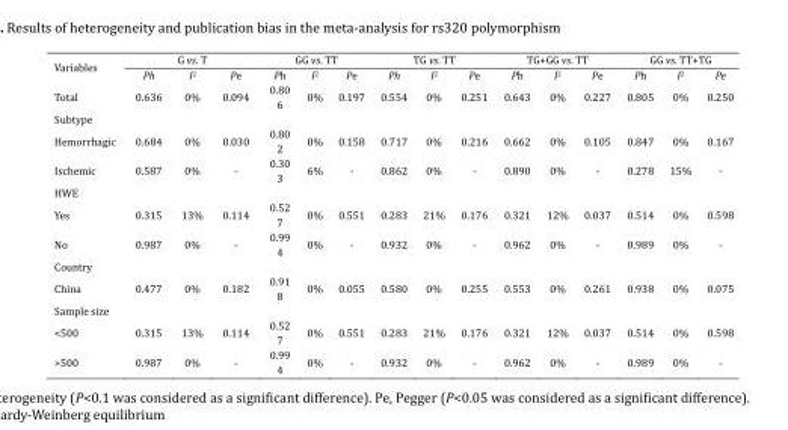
<table><thead><tr><td rowspan="2">Variables</td><td colspan="3">G vs. T</td><td colspan="3">GG vs. TT</td><td colspan="3">TG vs. TT</td><td colspan="3">TG+GG vs. TT</td><td colspan="3">GG vs. TT+TG</td></tr><tr><td>Ph</td><td>I<sup>2</sup></td><td>Pe</td><td>Ph</td><td>I<sup>2</sup></td><td>Pe</td><td>Ph</td><td>I<sup>2</sup></td><td>Pe</td><td>Ph</td><td>I<sup>2</sup></td><td>Pe</td><td>Ph</td><td>I<sup>2</sup></td><td>Pe</td></tr></thead><tbody><tr><td>Total</td><td>0.636</td><td>0%</td><td>0.094</td><td>0.80 6</td><td>0%</td><td>0.197</td><td>0.554</td><td>0%</td><td>0.251</td><td>0.643</td><td>0%</td><td>0.227</td><td>0.805</td><td>0%</td><td>0.250</td></tr><tr><td colspan="16">Subtype</td></tr><tr><td>Hemorrhagic</td><td>0.684</td><td>0%</td><td>0.030</td><td>0.80 2</td><td>0%</td><td>0.158</td><td>0.717</td><td>0%</td><td>0.216</td><td>0.662</td><td>0%</td><td>0.105</td><td>0.847</td><td>0%</td><td>0.167</td></tr><tr><td>Ischemic</td><td>0.587</td><td>0%</td><td>-</td><td>0.30 3</td><td>6%</td><td>-</td><td>0.862</td><td>0%</td><td>-</td><td>0.890</td><td>0%</td><td>-</td><td>0.278</td><td>15%</td><td>-</td></tr><tr><td colspan="16">HWE</td></tr><tr><td>Yes</td><td>0.315</td><td>13%</td><td>0.114</td><td>0.52 7</td><td>0%</td><td>0.551</td><td>0.283</td><td>21%</td><td>0.176</td><td>0.321</td><td>12%</td><td>0.037</td><td>0.514</td><td>0%</td><td>0.598</td></tr><tr><td>No</td><td>0.987</td><td>0%</td><td>-</td><td>0.99 4</td><td>0%</td><td>-</td><td>0.932</td><td>0%</td><td>-</td><td>0.962</td><td>0%</td><td>-</td><td>0.989</td><td>0%</td><td>-</td></tr><tr><td colspan="16">Country</td></tr><tr><td>China</td><td>0.477</td><td>0%</td><td>0.182</td><td>0.91 8</td><td>0%</td><td>0.055</td><td>0.580</td><td>0%</td><td>0.255</td><td>0.553</td><td>0%</td><td>0.261</td><td>0.938</td><td>0%</td><td>0.075</td></tr><tr><td colspan="16">Sample size</td></tr><tr><td>&lt;500</td><td>0.315</td><td>13%</td><td>0.114</td><td>0.52 7</td><td>0%</td><td>0.551</td><td>0.283</td><td>21%</td><td>0.176</td><td>0.321</td><td>12%</td><td>0.037</td><td>0.514</td><td>0%</td><td>0.598</td></tr><tr><td>&gt;500</td><td>0.987</td><td>0%</td><td>-</td><td>0.99 4</td><td>0%</td><td>-</td><td>0.932</td><td>0%</td><td>-</td><td>0.962</td><td>0%</td><td>-</td><td>0.989</td><td>0%</td><td>-</td></tr></tbody></table>